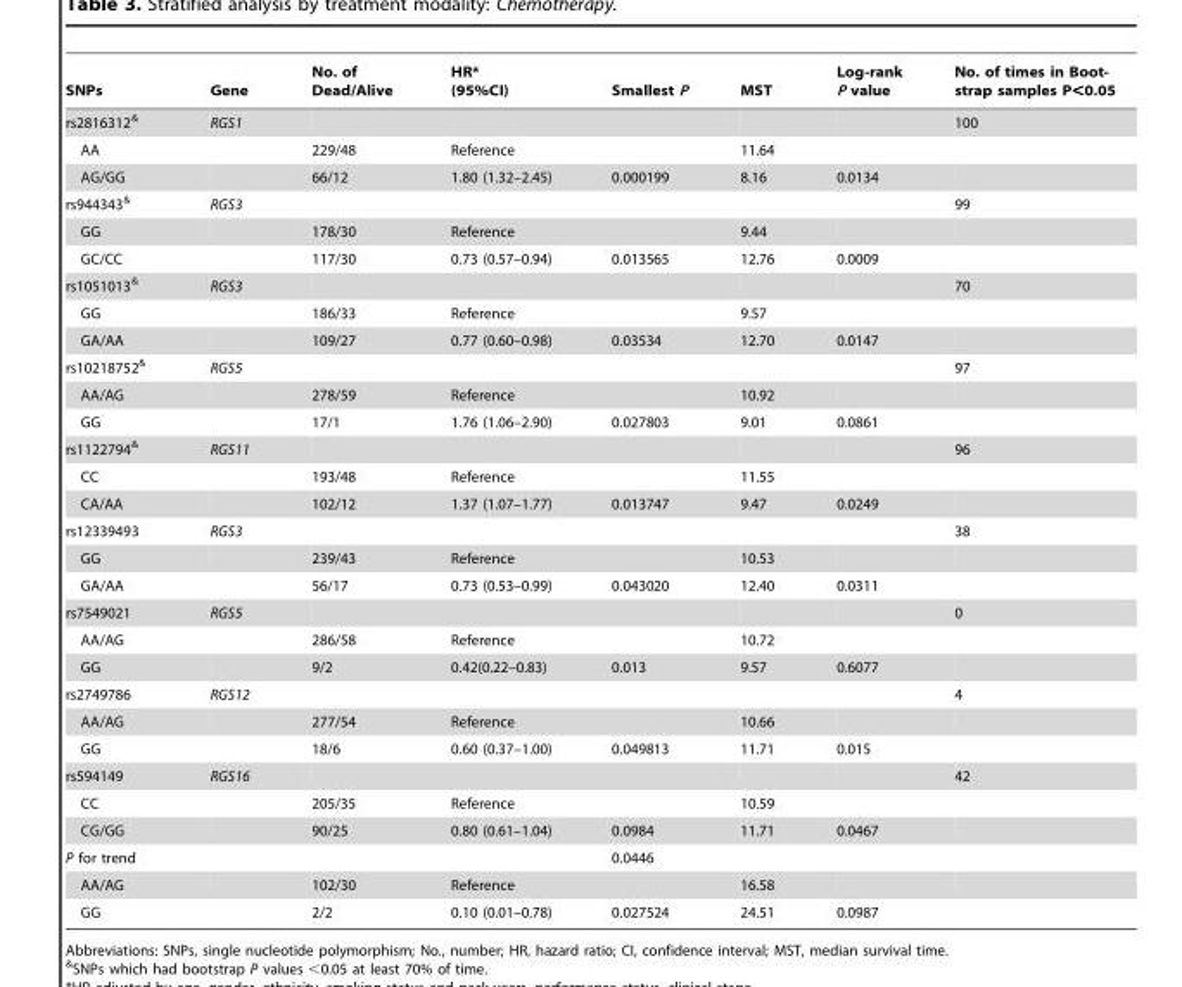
<table><thead><tr><td>SNPs</td><td>Gene</td><td>No. of Dead/Alive</td><td>HR* (95%CI)</td><td>Smallest P</td><td>MST</td><td>Log-rank P value</td><td>No. of times in Boot- strap samples P,0.05</td></tr></thead><tbody><tr><td>rs2816312&amp;</td><td>RGS1</td><td></td><td></td><td></td><td></td><td></td><td>100</td></tr><tr><td>AA</td><td></td><td>229/48</td><td>Reference</td><td></td><td>11.64</td><td></td><td></td></tr><tr><td>AG/GG</td><td></td><td>66/12</td><td>1.80 (1.32–2.45)</td><td>0.000199</td><td>8.16</td><td>0.0134</td><td></td></tr><tr><td>rs944343&amp;</td><td>RGS3</td><td></td><td></td><td></td><td></td><td></td><td>99</td></tr><tr><td>GG</td><td></td><td>178/30</td><td>Reference</td><td></td><td>9.44</td><td></td><td></td></tr><tr><td>GC/CC</td><td></td><td>117/30</td><td>0.73 (0.57–0.94)</td><td>0.013565</td><td>12.76</td><td>0.0009</td><td></td></tr><tr><td>rs1051013&amp;</td><td>RGS3</td><td></td><td></td><td></td><td></td><td></td><td>70</td></tr><tr><td>GG</td><td></td><td>186/33</td><td>Reference</td><td></td><td>9.57</td><td></td><td></td></tr><tr><td>GA/AA</td><td></td><td>109/27</td><td>0.77 (0.60–0.98)</td><td>0.03534</td><td>12.70</td><td>0.0147</td><td></td></tr><tr><td>rs10218752&amp;</td><td>RGS5</td><td></td><td></td><td></td><td></td><td></td><td>97</td></tr><tr><td>AA/AG</td><td></td><td>278/59</td><td>Reference</td><td></td><td>10.92</td><td></td><td></td></tr><tr><td>GG</td><td></td><td>17/1</td><td>1.76 (1.06–2.90)</td><td>0.027803</td><td>9.01</td><td>0.0861</td><td></td></tr><tr><td>rs1122794&amp;</td><td>RGS11</td><td></td><td></td><td></td><td></td><td></td><td>96</td></tr><tr><td>CC</td><td></td><td>193/48</td><td>Reference</td><td></td><td>11.55</td><td></td><td></td></tr><tr><td>CA/AA</td><td></td><td>102/12</td><td>1.37 (1.07–1.77)</td><td>0.013747</td><td>9.47</td><td>0.0249</td><td></td></tr><tr><td>rs12339493</td><td>RGS3</td><td></td><td></td><td></td><td></td><td></td><td>38</td></tr><tr><td>GG</td><td></td><td>239/43</td><td>Reference</td><td></td><td>10.53</td><td></td><td></td></tr><tr><td>GA/AA</td><td></td><td>56/17</td><td>0.73 (0.53–0.99)</td><td>0.043020</td><td>12.40</td><td>0.0311</td><td></td></tr><tr><td>rs7549021</td><td>RGS5</td><td></td><td></td><td></td><td></td><td></td><td>0</td></tr><tr><td>AA/AG</td><td></td><td>286/58</td><td>Reference</td><td></td><td>10.72</td><td></td><td></td></tr><tr><td>GG</td><td></td><td>9/2</td><td>0.42(0.22–0.83)</td><td>0.013</td><td>9.57</td><td>0.6077</td><td></td></tr><tr><td>rs2749786</td><td>RGS12</td><td></td><td></td><td></td><td></td><td></td><td>4</td></tr><tr><td>AA/AG</td><td></td><td>277/54</td><td>Reference</td><td></td><td>10.66</td><td></td><td></td></tr><tr><td>GG</td><td></td><td>18/6</td><td>0.60 (0.37–1.00)</td><td>0.049813</td><td>11.71</td><td>0.015</td><td></td></tr><tr><td>rs594149</td><td>RGS16</td><td></td><td></td><td></td><td></td><td></td><td>42</td></tr><tr><td>CC</td><td></td><td>205/35</td><td>Reference</td><td></td><td>10.59</td><td></td><td></td></tr><tr><td>CG/GG</td><td></td><td>90/25</td><td>0.80 (0.61–1.04)</td><td>0.0984</td><td>11.71</td><td>0.0467</td><td></td></tr><tr><td>P for trend</td><td></td><td></td><td></td><td>0.0446</td><td></td><td></td><td></td></tr><tr><td>AA/AG</td><td></td><td>102/30</td><td>Reference</td><td></td><td>16.58</td><td></td><td></td></tr><tr><td>GG</td><td></td><td>2/2</td><td>0.10 (0.01–0.78)</td><td>0.027524</td><td>24.51</td><td>0.0987</td><td></td></tr></tbody></table>